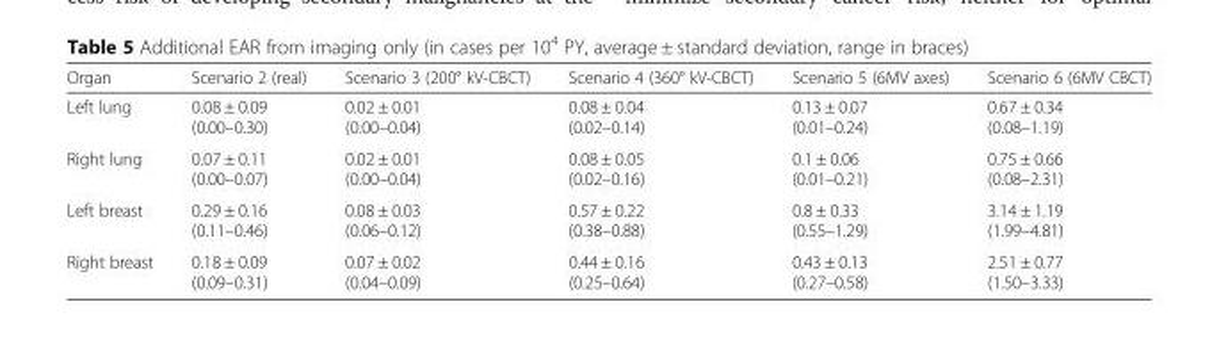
<table><thead><tr><td>Organ</td><td>Scenario 2 (real)</td><td>Scenario 3 (200° kV-CBCT)</td><td>Scenario 4 (360° kV-CBCT)</td><td>Scenario 5 (6MV axes)</td><td>Scenario 6 (6MV CBCT)</td></tr></thead><tbody><tr><td>Left lung</td><td>0.08 ± 0.09 (0.00–0.30)</td><td>0.02 ± 0.01 (0.00–0.04)</td><td>0.08 ± 0.04 (0.02–0.14)</td><td>0.13 ± 0.07 (0.01–0.24)</td><td>0.67 ± 0.34 (0.08–1.19)</td></tr><tr><td>Right lung</td><td>0.07 ± 0.11 (0.00–0.07)</td><td>0.02 ± 0.01 (0.00–0.04)</td><td>0.08 ± 0.05 (0.02–0.16)</td><td>0.1 ± 0.06 (0.01–0.21)</td><td>0.75 ± 0.66 (0.08–2.31)</td></tr><tr><td>Left breast</td><td>0.29 ± 0.16 (0.11–0.46)</td><td>0.08 ± 0.03 (0.06–0.12)</td><td>0.57 ± 0.22 (0.38–0.88)</td><td>0.8 ± 0.33 (0.55–1.29)</td><td>3.14 ± 1.19 (1.99–4.81)</td></tr><tr><td>Right breast</td><td>0.18 ± 0.09 (0.09–0.31)</td><td>0.07 ± 0.02 (0.04–0.09)</td><td>0.44 ± 0.16 (0.25–0.64)</td><td>0.43 ± 0.13 (0.27–0.58)</td><td>2.51 ± 0.77 (1.50–3.33)</td></tr></tbody></table>